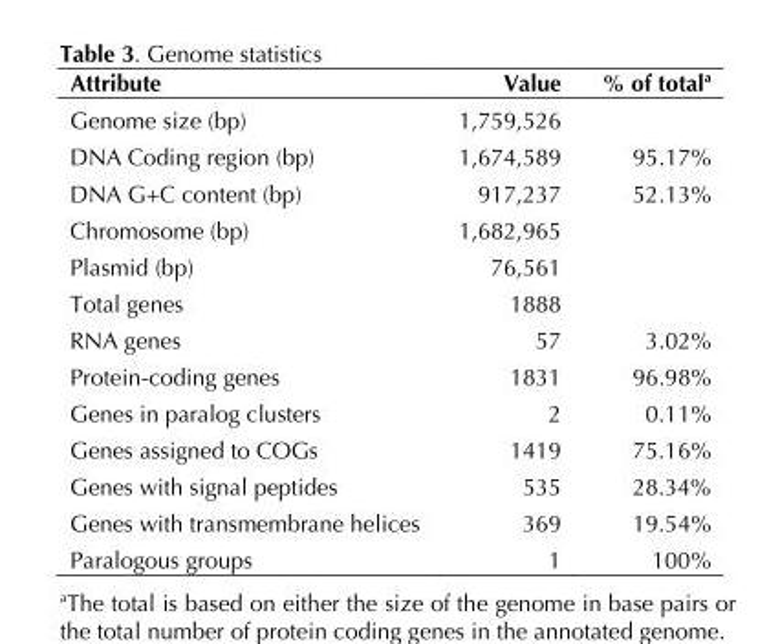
<table><thead><tr><td>Attribute</td><td>Value</td><td>% of total<sup>a</sup></td></tr></thead><tbody><tr><td>Genome size (bp)</td><td>1,759,526</td><td></td></tr><tr><td>DNA Coding region (bp)</td><td>1,674,589</td><td>95.17%</td></tr><tr><td>DNA G+C content (bp)</td><td>917,237</td><td>52.13%</td></tr><tr><td>Chromosome (bp)</td><td>1,682,965</td><td></td></tr><tr><td>Plasmid (bp)</td><td>76,561</td><td></td></tr><tr><td>Total genes</td><td>1888</td><td></td></tr><tr><td>RNA genes</td><td>57</td><td>3.02%</td></tr><tr><td>Protein-coding genes</td><td>1831</td><td>96.98%</td></tr><tr><td>Genes in paralog clusters</td><td>2</td><td>0.11%</td></tr><tr><td>Genes assigned to COGs</td><td>1419</td><td>75.16%</td></tr><tr><td>Genes with signal peptides</td><td>535</td><td>28.34%</td></tr><tr><td>Genes with transmembrane helices</td><td>369</td><td>19.54%</td></tr><tr><td>Paralogous groups</td><td>1</td><td>100%</td></tr></tbody></table>